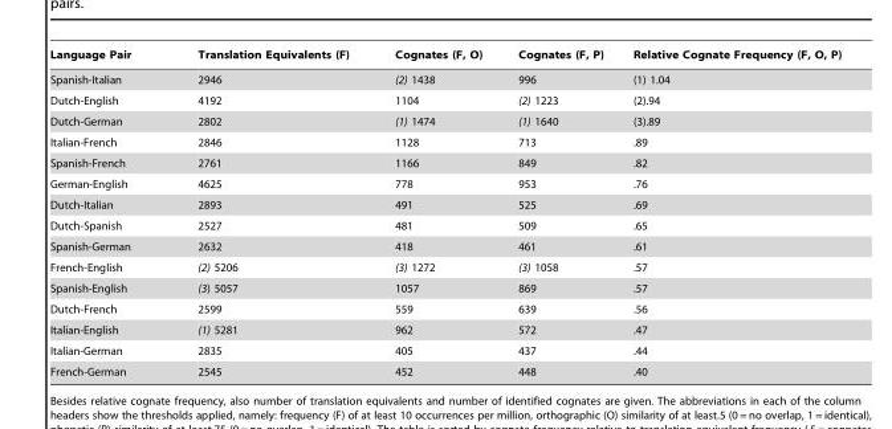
<table><thead><tr><td>Language Pair</td><td>Translation Equivalents (F)</td><td>Cognates (F, O)</td><td>Cognates (F, P)</td><td>Relative Cognate Frequency (F, O, P)</td></tr></thead><tbody><tr><td>Spanish-Italian</td><td>2946</td><td>(2) 1438</td><td>996</td><td>(1) 1.04</td></tr><tr><td>Dutch-English</td><td>4192</td><td>1104</td><td>(2) 1223</td><td>(2).94</td></tr><tr><td>Dutch-German</td><td>2802</td><td>(1) 1474</td><td>(1) 1640</td><td>(3).89</td></tr><tr><td>Italian-French</td><td>2846</td><td>1128</td><td>713</td><td>.89</td></tr><tr><td>Spanish-French</td><td>2761</td><td>1166</td><td>849</td><td>.82</td></tr><tr><td>German-English</td><td>4625</td><td>778</td><td>953</td><td>.76</td></tr><tr><td>Dutch-Italian</td><td>2893</td><td>491</td><td>525</td><td>.69</td></tr><tr><td>Dutch-Spanish</td><td>2527</td><td>481</td><td>509</td><td>.65</td></tr><tr><td>Spanish-German</td><td>2632</td><td>418</td><td>461</td><td>.61</td></tr><tr><td>French-English</td><td>(2) 5206</td><td>(3) 1272</td><td>(3) 1058</td><td>.57</td></tr><tr><td>Spanish-English</td><td>(3) 5057</td><td>1057</td><td>869</td><td>.57</td></tr><tr><td>Dutch-French</td><td>2599</td><td>559</td><td>639</td><td>.56</td></tr><tr><td>Italian-English</td><td>(1) 5281</td><td>962</td><td>572</td><td>.47</td></tr><tr><td>Italian-German</td><td>2835</td><td>405</td><td>437</td><td>.44</td></tr><tr><td>French-German</td><td>2545</td><td>452</td><td>448</td><td>.40</td></tr></tbody></table>